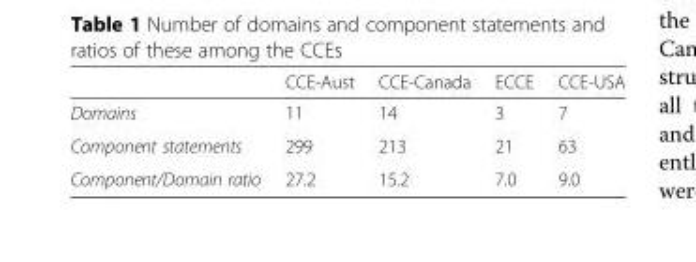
<table><thead><tr><td></td><td>CCE-Aust</td><td>CCE-Canada</td><td>ECCE</td><td>CCE-USA</td></tr></thead><tbody><tr><td>Domains</td><td>11</td><td>14</td><td>3</td><td>7</td></tr><tr><td>Component statements</td><td>299</td><td>213</td><td>21</td><td>63</td></tr><tr><td>Component/Domain ratio</td><td>27.2</td><td>15.2</td><td>7.0</td><td>9.0</td></tr></tbody></table>